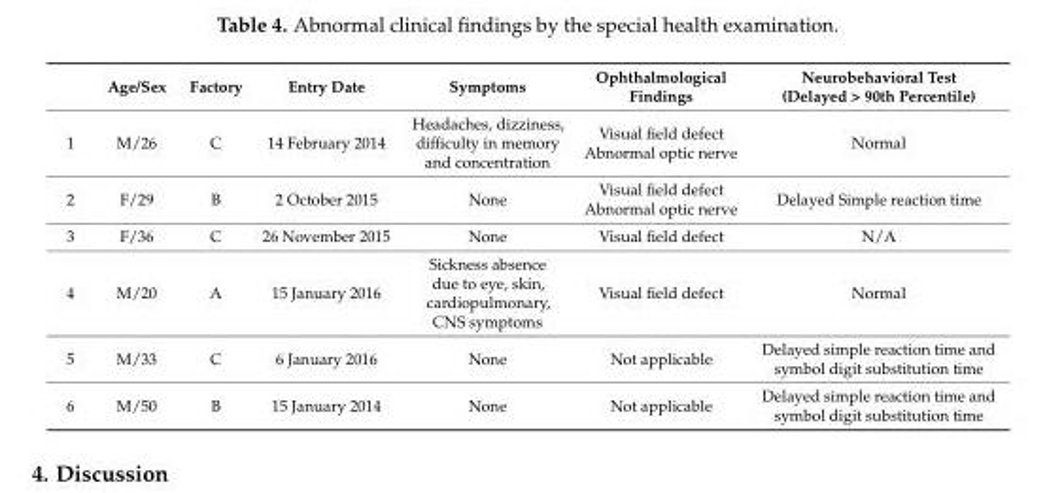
<table><thead><tr><td></td><td>Age/Sex</td><td>Factory</td><td>Entry Date</td><td>Symptoms</td><td>Ophthalmological Findings</td><td>Neurobehavioral Test (Delayed &gt; 90th Percentile)</td></tr></thead><tbody><tr><td>1</td><td>M/26</td><td>C</td><td>14 February 2014</td><td>Headaches, dizziness, difficulty in memory and concentration</td><td>Visual field defect Abnormal optic nerve</td><td>Normal</td></tr><tr><td>2</td><td>F/29</td><td>B</td><td>2 October 2015</td><td>None</td><td>Visual field defect Abnormal optic nerve</td><td>Delayed Simple reaction time</td></tr><tr><td>3</td><td>F/36</td><td>C</td><td>26 November 2015</td><td>None</td><td>Visual field defect</td><td>N/A</td></tr><tr><td>4</td><td>M/20</td><td>A</td><td>15 January 2016</td><td>Sickness absence due to eye, skin, cardiopulmonary, CNS symptoms</td><td>Visual field defect</td><td>Normal</td></tr><tr><td>5</td><td>M/33</td><td>C</td><td>6 January 2016</td><td>None</td><td>Not applicable</td><td>Delayed simple reaction time and symbol digit substitution time</td></tr><tr><td>6</td><td>M/50</td><td>B</td><td>15 January 2014</td><td>None</td><td>Not applicable</td><td>Delayed simple reaction time and symbol digit substitution time</td></tr></tbody></table>